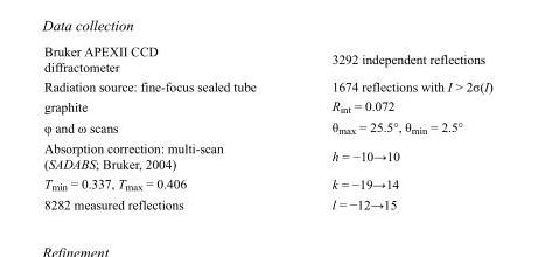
<table><tbody><tr><td>Bruker APEXII CCD diffractometer</td><td>3292 independent reflections</td></tr><tr><td>Radiation source: fine-focus sealed tube</td><td>1674 reflections with I &gt; 2σ(I)</td></tr><tr><td>graphite</td><td>R<sub>int</sub> = 0.072</td></tr><tr><td>φ and ω scans</td><td>θ<sub>max</sub> = 25.5°, θ<sub>min</sub> = 2.5°</td></tr><tr><td>Absorption correction: multi-scan (SADABS; Bruker, 2004)</td><td>h = −10→10</td></tr><tr><td>T<sub>min</sub> = 0.337, T<sub>max</sub> = 0.406</td><td>k = −19→14</td></tr><tr><td>8282 measured reflections</td><td>l = −12→15</td></tr></tbody></table>